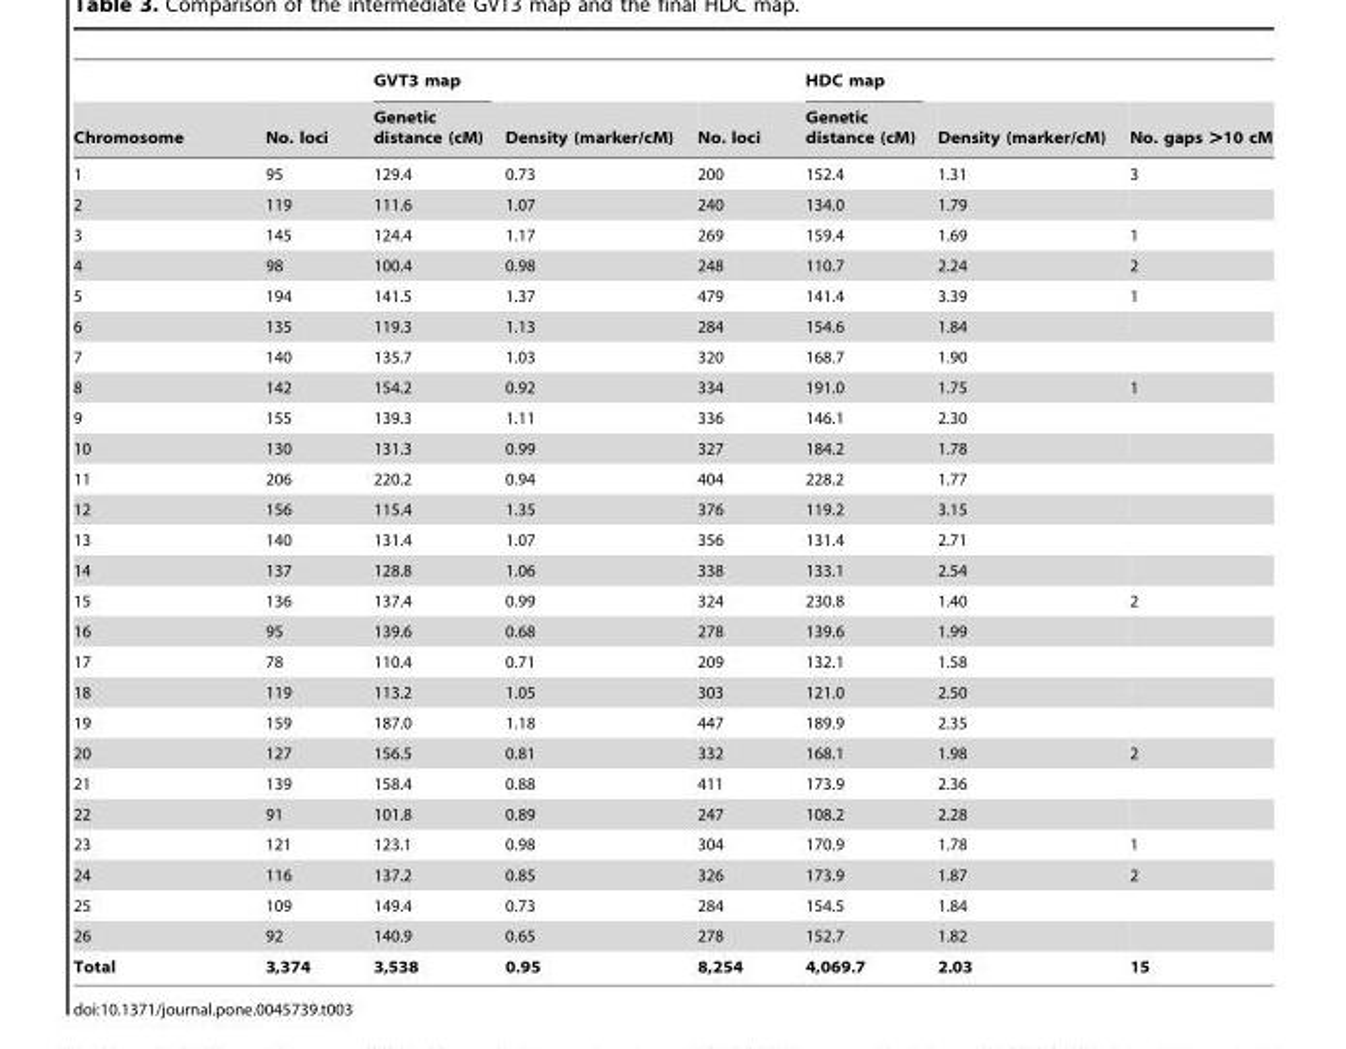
<table><thead><tr><td rowspan="2">Chromosome</td><td rowspan="2">No. loci</td><td rowspan="2">GVT3 map Genetic distance (cM)</td><td rowspan="2">Density (marker/cM)</td><td rowspan="2">No. loci</td><td rowspan="2">HDC map Genetic distance (cM)</td><td rowspan="2">Density (marker/cM)</td><td rowspan="2">No. gaps &gt;10 cM</td></tr><tr></tr></thead><tbody><tr><td>1</td><td>95</td><td>129.4</td><td>0.73</td><td>200</td><td>152.4</td><td>1.31</td><td>3</td></tr><tr><td>2</td><td>119</td><td>111.6</td><td>1.07</td><td>240</td><td>134.0</td><td>1.79</td><td></td></tr><tr><td>3</td><td>145</td><td>124.4</td><td>1.17</td><td>269</td><td>159.4</td><td>1.69</td><td>1</td></tr><tr><td>4</td><td>98</td><td>100.4</td><td>0.98</td><td>248</td><td>110.7</td><td>2.24</td><td>2</td></tr><tr><td>5</td><td>194</td><td>141.5</td><td>1.37</td><td>479</td><td>141.4</td><td>3.39</td><td>1</td></tr><tr><td>6</td><td>135</td><td>119.3</td><td>1.13</td><td>284</td><td>154.6</td><td>1.84</td><td></td></tr><tr><td>7</td><td>140</td><td>135.7</td><td>1.03</td><td>320</td><td>168.7</td><td>1.90</td><td></td></tr><tr><td>8</td><td>142</td><td>154.2</td><td>0.92</td><td>334</td><td>191.0</td><td>1.75</td><td>1</td></tr><tr><td>9</td><td>155</td><td>139.3</td><td>1.11</td><td>336</td><td>146.1</td><td>2.30</td><td></td></tr><tr><td>10</td><td>130</td><td>131.3</td><td>0.99</td><td>327</td><td>184.2</td><td>1.78</td><td></td></tr><tr><td>11</td><td>206</td><td>220.2</td><td>0.94</td><td>404</td><td>228.2</td><td>1.77</td><td></td></tr><tr><td>12</td><td>156</td><td>115.4</td><td>1.35</td><td>376</td><td>119.2</td><td>3.15</td><td></td></tr><tr><td>13</td><td>140</td><td>131.4</td><td>1.07</td><td>356</td><td>131.4</td><td>2.71</td><td></td></tr><tr><td>14</td><td>137</td><td>128.8</td><td>1.06</td><td>338</td><td>133.1</td><td>2.54</td><td></td></tr><tr><td>15</td><td>136</td><td>137.4</td><td>0.99</td><td>324</td><td>230.8</td><td>1.40</td><td>2</td></tr><tr><td>16</td><td>95</td><td>139.6</td><td>0.68</td><td>278</td><td>139.6</td><td>1.99</td><td></td></tr><tr><td>17</td><td>78</td><td>110.4</td><td>0.71</td><td>209</td><td>132.1</td><td>1.58</td><td></td></tr><tr><td>18</td><td>119</td><td>113.2</td><td>1.05</td><td>303</td><td>121.0</td><td>2.50</td><td></td></tr><tr><td>19</td><td>159</td><td>187.0</td><td>1.18</td><td>447</td><td>189.9</td><td>2.35</td><td></td></tr><tr><td>20</td><td>127</td><td>156.5</td><td>0.81</td><td>332</td><td>168.1</td><td>1.98</td><td>2</td></tr><tr><td>21</td><td>139</td><td>158.4</td><td>0.88</td><td>411</td><td>173.9</td><td>2.36</td><td></td></tr><tr><td>22</td><td>91</td><td>101.8</td><td>0.89</td><td>247</td><td>108.2</td><td>2.28</td><td></td></tr><tr><td>23</td><td>121</td><td>123.1</td><td>0.98</td><td>304</td><td>170.9</td><td>1.78</td><td>1</td></tr><tr><td>24</td><td>116</td><td>137.2</td><td>0.85</td><td>326</td><td>173.9</td><td>1.87</td><td>2</td></tr><tr><td>25</td><td>109</td><td>149.4</td><td>0.73</td><td>284</td><td>154.5</td><td>1.84</td><td></td></tr><tr><td>26</td><td>92</td><td>140.9</td><td>0.65</td><td>278</td><td>152.7</td><td>1.82</td><td></td></tr><tr><td>Total</td><td>3,374</td><td>3,538</td><td>0.95</td><td>8,254</td><td>4,069.7</td><td>2.03</td><td>15</td></tr></tbody></table>